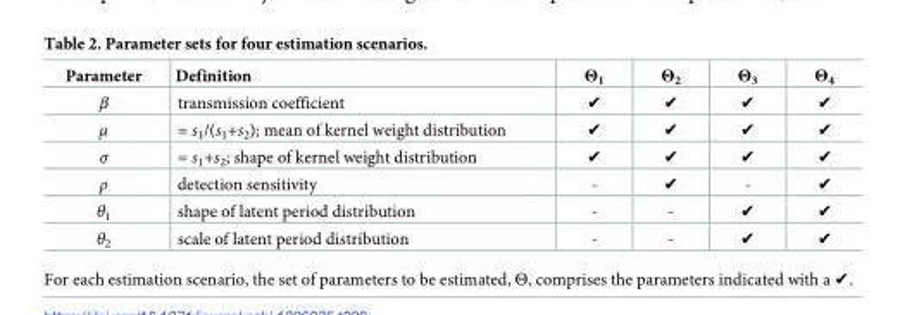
<table><thead><tr><td>Parameter</td><td>Definition</td><td>Θ<sub>1</sub></td><td>Θ<sub>2</sub></td><td>Θ<sub>3</sub></td><td>Θ<sub>4</sub></td></tr></thead><tbody><tr><td>β</td><td>transmission coefficient</td><td>✔</td><td>✔</td><td>✔</td><td>✔</td></tr><tr><td>μ</td><td>= s<sub>1</sub>/(s<sub>1</sub>+s<sub>2</sub>); mean of kernel weight distribution</td><td>✔</td><td>✔</td><td>✔</td><td>✔</td></tr><tr><td>σ</td><td>= s<sub>1</sub>+s<sub>2</sub>; shape of kernel weight distribution</td><td>✔</td><td>✔</td><td>✔</td><td>✔</td></tr><tr><td>ρ</td><td>detection sensitivity</td><td>-</td><td>✔</td><td>-</td><td>✔</td></tr><tr><td>θ<sub>1</sub></td><td>shape of latent period distribution</td><td>-</td><td>-</td><td>✔</td><td>✔</td></tr><tr><td>θ<sub>2</sub></td><td>scale of latent period distribution</td><td>-</td><td>-</td><td>✔</td><td>✔</td></tr></tbody></table>